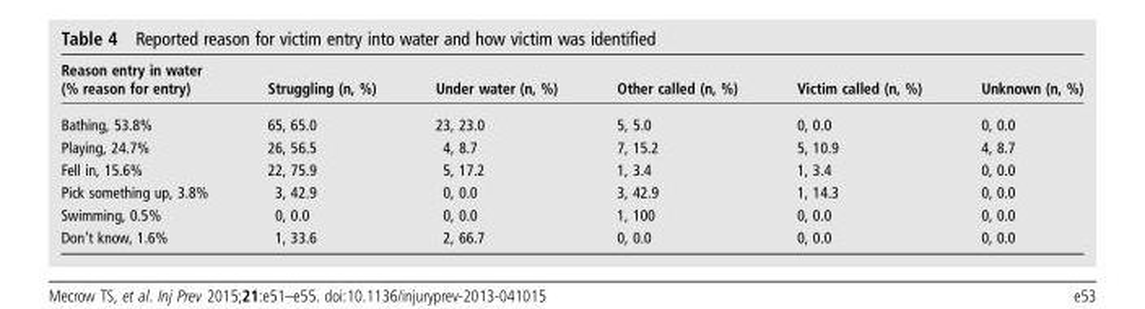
<table><thead><tr><td>Reason entry in water (% reason for entry)</td><td>Struggling (n, %)</td><td>Under water (n, %)</td><td>Other called (n, %)</td><td>Victim called (n, %)</td><td>Unknown (n, %)</td></tr></thead><tbody><tr><td>Bathing, 53.8%</td><td>65, 65.0</td><td>23, 23.0</td><td>5, 5.0</td><td>0, 0.0</td><td>0, 0.0</td></tr><tr><td>Playing, 24.7%</td><td>26, 56.5</td><td>4, 8.7</td><td>7, 15.2</td><td>5, 10.9</td><td>4, 8.7</td></tr><tr><td>Fell in, 15.6%</td><td>22, 75.9</td><td>5, 17.2</td><td>1, 3.4</td><td>1, 3.4</td><td>0, 0.0</td></tr><tr><td>Pick something up, 3.8%</td><td>3, 42.9</td><td>0, 0.0</td><td>3, 42.9</td><td>1, 14.3</td><td>0, 0.0</td></tr><tr><td>Swimming, 0.5%</td><td>0, 0.0</td><td>0, 0.0</td><td>1, 100</td><td>0, 0.0</td><td>0, 0.0</td></tr><tr><td>Don’t know, 1.6%</td><td>1, 33.6</td><td>2, 66.7</td><td>0, 0.0</td><td>0, 0.0</td><td>0, 0.0</td></tr></tbody></table>